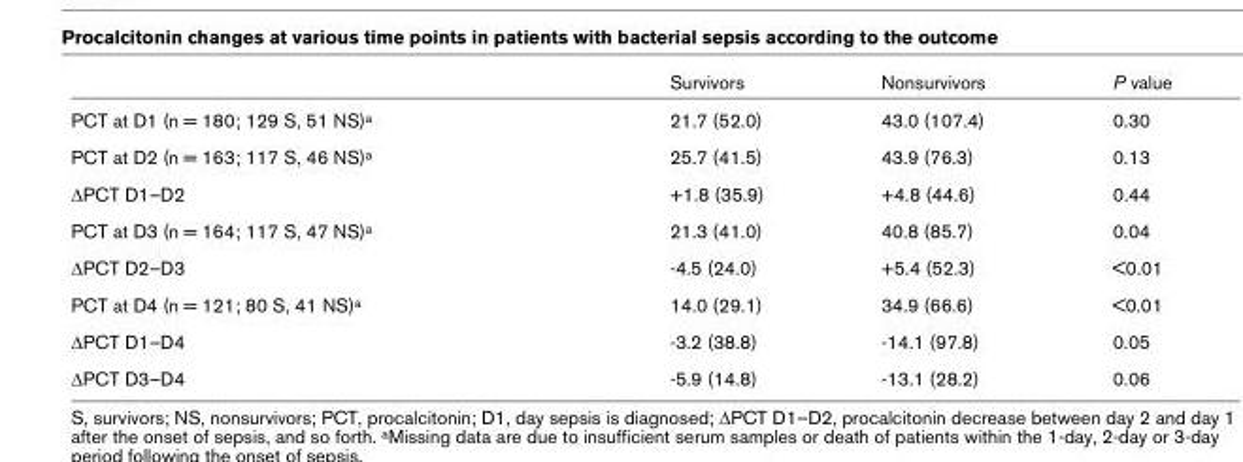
<table><thead><tr><td></td><td>Survivors</td><td>Nonsurvivors</td><td>P value</td></tr></thead><tbody><tr><td>PCT at D1 (n = 180; 129 S, 51 NS)<sup>a</sup></td><td>21.7 (52.0)</td><td>43.0 (107.4)</td><td>0.30</td></tr><tr><td>PCT at D2 (n = 163; 117 S, 46 NS)<sup>a</sup></td><td>25.7 (41.5)</td><td>43.9 (76.3)</td><td>0.13</td></tr><tr><td>ΔPCT D1–D2</td><td>+1.8 (35.9)</td><td>+4.8 (44.6)</td><td>0.44</td></tr><tr><td>PCT at D3 (n = 164; 117 S, 47 NS)<sup>a</sup></td><td>21.3 (41.0)</td><td>40.8 (85.7)</td><td>0.04</td></tr><tr><td>ΔPCT D2–D3</td><td>-4.5 (24.0)</td><td>+5.4 (52.3)</td><td>&lt;0.01</td></tr><tr><td>PCT at D4 (n = 121; 80 S, 41 NS)<sup>a</sup></td><td>14.0 (29.1)</td><td>34.9 (66.6)</td><td>&lt;0.01</td></tr><tr><td>ΔPCT D1–D4</td><td>-3.2 (38.8)</td><td>-14.1 (97.8)</td><td>0.05</td></tr><tr><td>ΔPCT D3–D4</td><td>-5.9 (14.8)</td><td>-13.1 (28.2)</td><td>0.06</td></tr></tbody></table>